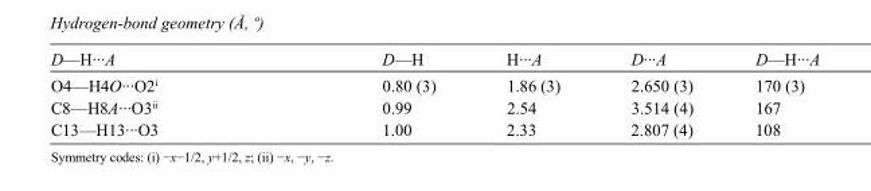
<table><tbody><tr><td>D—H···A</td><td>D—H</td><td>H···A</td><td>D···A</td><td>D—H···A</td></tr><tr><td>O4—H4O···O2<sup>i</sup></td><td>0.80 (3)</td><td>1.86 (3)</td><td>2.650 (3)</td><td>170 (3)</td></tr><tr><td>C8—H8A···O3<sup>ii</sup></td><td>0.99</td><td>2.54</td><td>3.514 (4)</td><td>167</td></tr><tr><td>C13—H13···O3</td><td>1.00</td><td>2.33</td><td>2.807 (4)</td><td>108</td></tr></tbody></table>